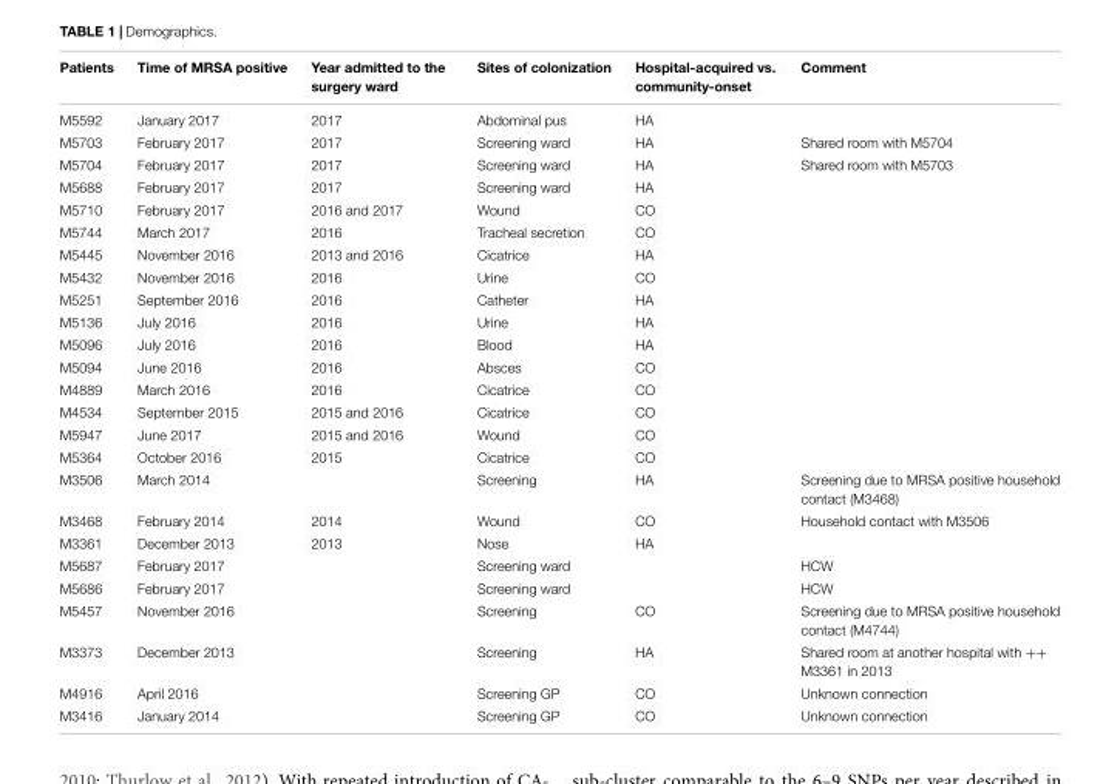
<table><thead><tr><td>Patients</td><td>Time of MRSA positive</td><td>Year admitted to the surgery ward</td><td>Sites of colonization</td><td>Hospital-acquired vs. community-onset</td><td>Comment</td></tr></thead><tbody><tr><td>M5592</td><td>January 2017</td><td>2017</td><td>Abdominal pus</td><td>HA</td><td></td></tr><tr><td>M5703</td><td>February 2017</td><td>2017</td><td>Screening ward</td><td>HA</td><td>Shared room with M5704</td></tr><tr><td>M5704</td><td>February 2017</td><td>2017</td><td>Screening ward</td><td>HA</td><td>Shared room with M5703</td></tr><tr><td>M5688</td><td>February 2017</td><td>2017</td><td>Screening ward</td><td>HA</td><td></td></tr><tr><td>M5710</td><td>February 2017</td><td>2016 and 2017</td><td>Wound</td><td>CO</td><td></td></tr><tr><td>M5744</td><td>March 2017</td><td>2016</td><td>Tracheal secretion</td><td>CO</td><td></td></tr><tr><td>M5445</td><td>November 2016</td><td>2013 and 2016</td><td>Cicatrice</td><td>HA</td><td></td></tr><tr><td>M5432</td><td>November 2016</td><td>2016</td><td>Urine</td><td>CO</td><td></td></tr><tr><td>M5251</td><td>September 2016</td><td>2016</td><td>Catheter</td><td>HA</td><td></td></tr><tr><td>M5136</td><td>July 2016</td><td>2016</td><td>Urine</td><td>HA</td><td></td></tr><tr><td>M5096</td><td>July 2016</td><td>2016</td><td>Blood</td><td>HA</td><td></td></tr><tr><td>M5094</td><td>June 2016</td><td>2016</td><td>Absces</td><td>CO</td><td></td></tr><tr><td>M4889</td><td>March 2016</td><td>2016</td><td>Cicatrice</td><td>CO</td><td></td></tr><tr><td>M4534</td><td>September 2015</td><td>2015 and 2016</td><td>Cicatrice</td><td>CO</td><td></td></tr><tr><td>M5947</td><td>June 2017</td><td>2015 and 2016</td><td>Wound</td><td>CO</td><td></td></tr><tr><td>M5364</td><td>October 2016</td><td>2015</td><td>Cicatrice</td><td>CO</td><td></td></tr><tr><td>M3506</td><td>March 2014</td><td></td><td>Screening</td><td>HA</td><td>Screening due to MRSA positive household contact (M3468)</td></tr><tr><td>M3468</td><td>February 2014</td><td>2014</td><td>Wound</td><td>CO</td><td>Household contact with M3506</td></tr><tr><td>M3361</td><td>December 2013</td><td>2013</td><td>Nose</td><td>HA</td><td></td></tr><tr><td>M5687</td><td>February 2017</td><td></td><td>Screening ward</td><td></td><td>HCW</td></tr><tr><td>M5686</td><td>February 2017</td><td></td><td>Screening ward</td><td></td><td>HCW</td></tr><tr><td>M5457</td><td>November 2016</td><td></td><td>Screening</td><td>CO</td><td>Screening due to MRSA positive household contact (M4744)</td></tr><tr><td>M3373</td><td>December 2013</td><td></td><td>Screening</td><td>HA</td><td>Shared room at another hospital with ++ M3361 in 2013</td></tr><tr><td>M4916</td><td>April 2016</td><td></td><td>Screening GP</td><td>CO</td><td>Unknown connection</td></tr><tr><td>M3416</td><td>January 2014</td><td></td><td>Screening GP</td><td>CO</td><td>Unknown connection</td></tr></tbody></table>